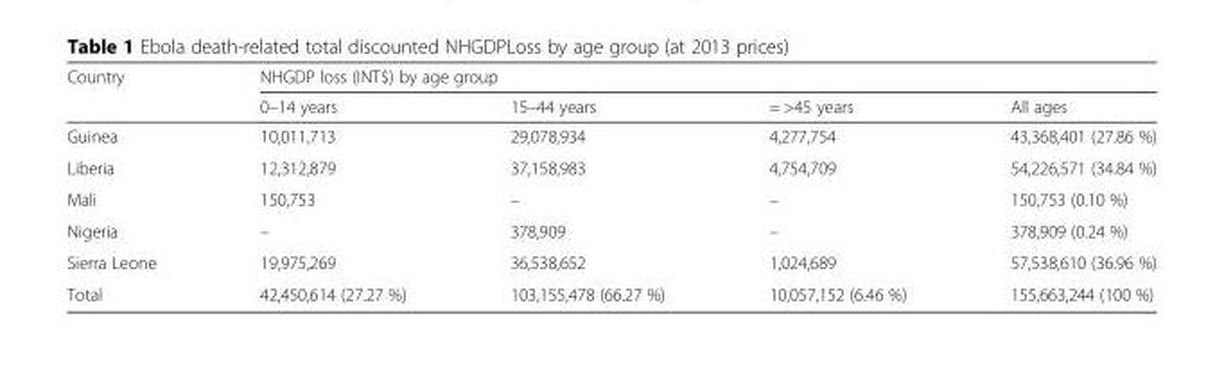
<table><thead><tr><td rowspan="2">Country</td><td colspan="4">NHGDP loss (INT$) by age group</td></tr><tr><td>0–14 years</td><td>15–44 years</td><td>= &gt;45 years</td><td>All ages</td></tr></thead><tbody><tr><td>Guinea</td><td>10,011,713</td><td>29,078,934</td><td>4,277,754</td><td>43,368,401 (27.86 %)</td></tr><tr><td>Liberia</td><td>12,312,879</td><td>37,158,983</td><td>4,754,709</td><td>54,226,571 (34.84 %)</td></tr><tr><td>Mali</td><td>150,753</td><td>–</td><td>–</td><td>150,753 (0.10 %)</td></tr><tr><td>Nigeria</td><td>–</td><td>378,909</td><td>–</td><td>378,909 (0.24 %)</td></tr><tr><td>Sierra Leone</td><td>19,975,269</td><td>36,538,652</td><td>1,024,689</td><td>57,538,610 (36.96 %)</td></tr><tr><td>Total</td><td>42,450,614 (27.27 %)</td><td>103,155,478 (66.27 %)</td><td>10,057,152 (6.46 %)</td><td>155,663,244 (100 %)</td></tr></tbody></table>